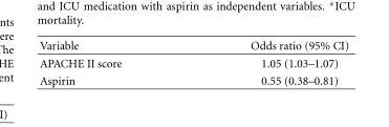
<table><thead><tr><td>Variable</td><td>Odds ratio (95% CI)</td></tr></thead><tbody><tr><td>APACHE II score</td><td>1.05 (1.03–1.07)</td></tr><tr><td>Aspirin</td><td>0.55 (0.38–0.81)</td></tr></tbody></table>